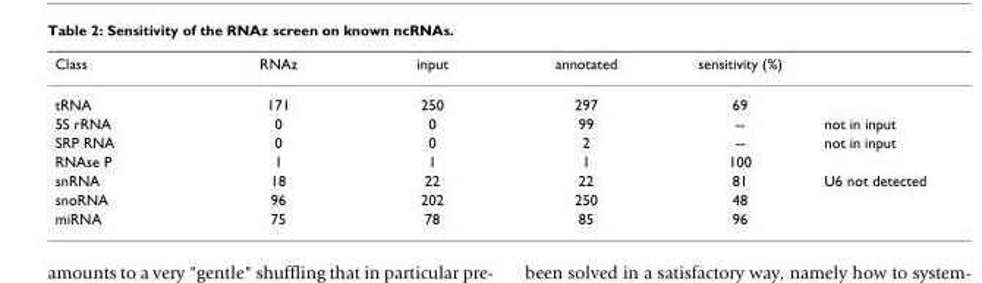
<table><thead><tr><td>Class</td><td>RNAz</td><td>input</td><td>annotated</td><td>sensitivity (%)</td><td></td></tr></thead><tbody><tr><td>tRNA</td><td>171</td><td>250</td><td>297</td><td>69</td><td></td></tr><tr><td>5S rRNA</td><td>0</td><td>0</td><td>99</td><td>--</td><td>not in input</td></tr><tr><td>SRP RNA</td><td>0</td><td>0</td><td>2</td><td>--</td><td>not in input</td></tr><tr><td>RNAse P</td><td>1</td><td>1</td><td>1</td><td>100</td><td></td></tr><tr><td>snRNA</td><td>18</td><td>22</td><td>22</td><td>81</td><td>U6 not detected</td></tr><tr><td>snoRNA</td><td>96</td><td>202</td><td>250</td><td>48</td><td></td></tr><tr><td>miRNA</td><td>75</td><td>78</td><td>85</td><td>96</td><td></td></tr></tbody></table>